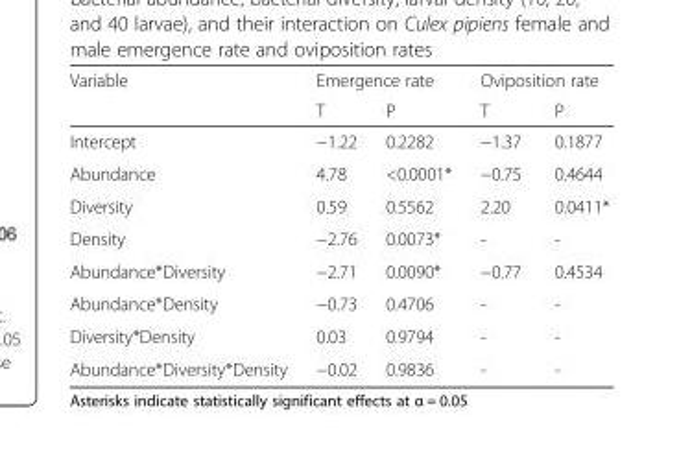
<table><thead><tr><td rowspan="2">Variable</td><td colspan="2">Emergence rate</td><td colspan="2">Oviposition rate</td></tr><tr><td>T</td><td>P</td><td>T</td><td>P</td></tr></thead><tbody><tr><td>Intercept</td><td>−1.22</td><td>0.2282</td><td>−1.37</td><td>0.1877</td></tr><tr><td>Abundance</td><td>4.78</td><td>&lt;0.0001*</td><td>−0.75</td><td>0.4644</td></tr><tr><td>Diversity</td><td>0.59</td><td>0.5562</td><td>2.20</td><td>0.0411*</td></tr><tr><td>Density</td><td>−2.76</td><td>0.0073*</td><td>-</td><td>-</td></tr><tr><td>Abundance*Diversity</td><td>−2.71</td><td>0.0090*</td><td>−0.77</td><td>0.4534</td></tr><tr><td>Abundance*Density</td><td>−0.73</td><td>0.4706</td><td>-</td><td>-</td></tr><tr><td>Diversity*Density</td><td>0.03</td><td>0.9794</td><td>-</td><td>-</td></tr><tr><td>Abundance*Diversity*Density</td><td>−0.02</td><td>0.9836</td><td>-</td><td>-</td></tr></tbody></table>